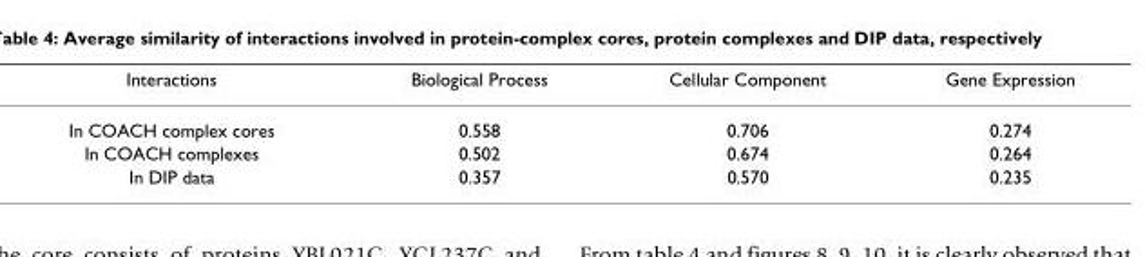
<table><thead><tr><td>Interactions</td><td>Biological Process</td><td>Cellular Component</td><td>Gene Expression</td></tr></thead><tbody><tr><td>In COACH complex cores</td><td>0.558</td><td>0.706</td><td>0.274</td></tr><tr><td>In COACH complexes</td><td>0.502</td><td>0.674</td><td>0.264</td></tr><tr><td>In DIP data</td><td>0.357</td><td>0.570</td><td>0.235</td></tr></tbody></table>